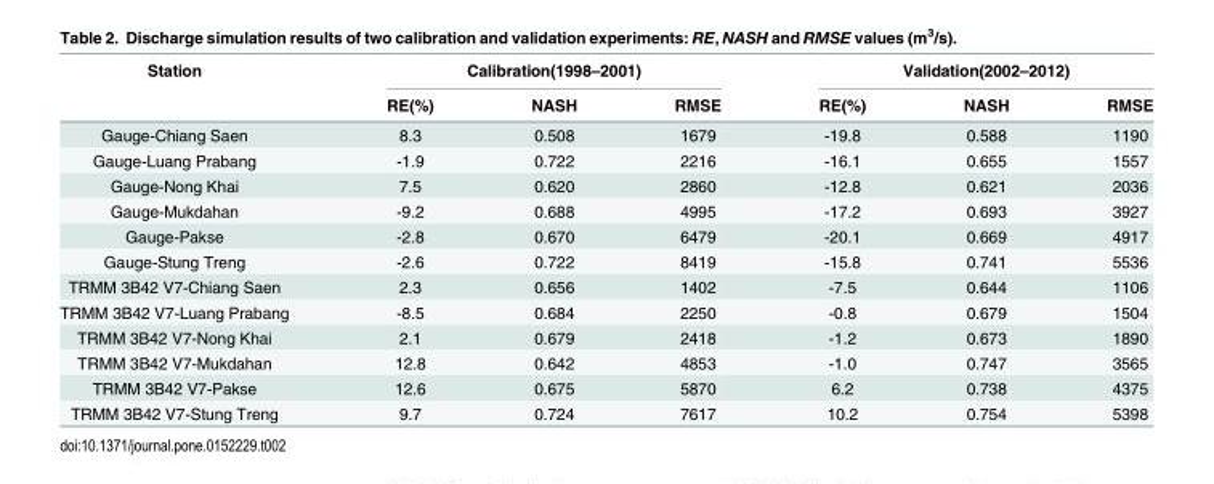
<table><thead><tr><td rowspan="2">Station</td><td colspan="3">Calibration(1998–2001)</td><td colspan="3">Validation(2002–2012)</td></tr><tr><td>RE(%)</td><td>NASH</td><td>RMSE</td><td>RE(%)</td><td>NASH</td><td>RMSE</td></tr></thead><tbody><tr><td>Gauge-Chiang Saen</td><td>8.3</td><td>0.508</td><td>1679</td><td>-19.8</td><td>0.588</td><td>1190</td></tr><tr><td>Gauge-Luang Prabang</td><td>-1.9</td><td>0.722</td><td>2216</td><td>-16.1</td><td>0.655</td><td>1557</td></tr><tr><td>Gauge-Nong Khai</td><td>7.5</td><td>0.620</td><td>2860</td><td>-12.8</td><td>0.621</td><td>2036</td></tr><tr><td>Gauge-Mukdahan</td><td>-9.2</td><td>0.688</td><td>4995</td><td>-17.2</td><td>0.693</td><td>3927</td></tr><tr><td>Gauge-Pakse</td><td>-2.8</td><td>0.670</td><td>6479</td><td>-20.1</td><td>0.669</td><td>4917</td></tr><tr><td>Gauge-Stung Treng</td><td>-2.6</td><td>0.722</td><td>8419</td><td>-15.8</td><td>0.741</td><td>5536</td></tr><tr><td>TRMM 3B42 V7-Chiang Saen</td><td>2.3</td><td>0.656</td><td>1402</td><td>-7.5</td><td>0.644</td><td>1106</td></tr><tr><td>TRMM 3B42 V7-Luang Prabang</td><td>-8.5</td><td>0.684</td><td>2250</td><td>-0.8</td><td>0.679</td><td>1504</td></tr><tr><td>TRMM 3B42 V7-Nong Khai</td><td>2.1</td><td>0.679</td><td>2418</td><td>-1.2</td><td>0.673</td><td>1890</td></tr><tr><td>TRMM 3B42 V7-Mukdahan</td><td>12.8</td><td>0.642</td><td>4853</td><td>-1.0</td><td>0.747</td><td>3565</td></tr><tr><td>TRMM 3B42 V7-Pakse</td><td>12.6</td><td>0.675</td><td>5870</td><td>6.2</td><td>0.738</td><td>4375</td></tr><tr><td>TRMM 3B42 V7-Stung Treng</td><td>9.7</td><td>0.724</td><td>7617</td><td>10.2</td><td>0.754</td><td>5398</td></tr></tbody></table>